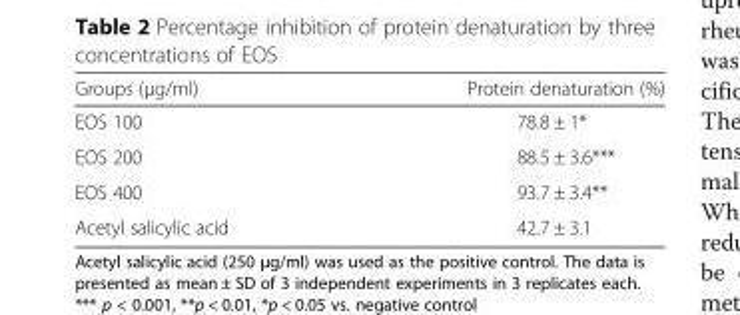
<table><thead><tr><td>Groups (μg/ml)</td><td>Protein denaturation (%)</td></tr></thead><tbody><tr><td>EOS 100</td><td>78.8 ± 1*</td></tr><tr><td>EOS 200</td><td>88.5 ± 3.6***</td></tr><tr><td>EOS 400</td><td>93.7 ± 3.4**</td></tr><tr><td>Acetyl salicylic acid</td><td>42.7 ± 3.1</td></tr></tbody></table>